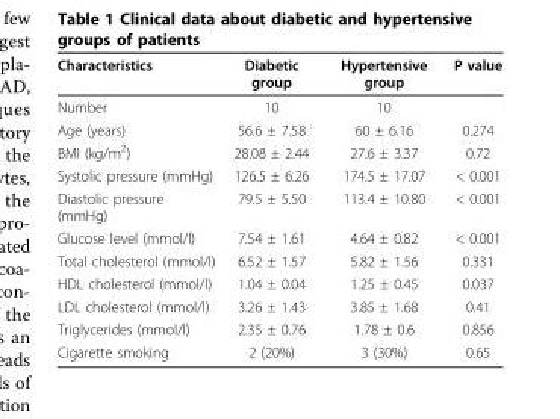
<table><thead><tr><td>Characteristics</td><td>Diabetic group</td><td>Hypertensive group</td><td>P value</td></tr></thead><tbody><tr><td>Number</td><td>10</td><td>10</td><td></td></tr><tr><td>Age (years)</td><td>56.6 ± 7.58</td><td>60 ± 6.16</td><td>0.274</td></tr><tr><td>BMI (kg/m<sup>2</sup>)</td><td>28.08 ± 2.44</td><td>27.6 ± 3.37</td><td>0.72</td></tr><tr><td>Systolic pressure (mmHg)</td><td>126.5 ± 6.26</td><td>174.5 ± 17.07</td><td>&lt; 0.001</td></tr><tr><td>Diastolic pressure (mmHg)</td><td>79.5 ± 5.50</td><td>113.4 ± 10.80</td><td>&lt; 0.001</td></tr><tr><td>Glucose level (mmol/l)</td><td>7.54 ± 1.61</td><td>4.64 ± 0.82</td><td>&lt; 0.001</td></tr><tr><td>Total cholesterol (mmol/l)</td><td>6.52 ± 1.57</td><td>5.82 ± 1.56</td><td>0.331</td></tr><tr><td>HDL cholesterol (mmol/l)</td><td>1.04 ± 0.04</td><td>1.25 ± 0.45</td><td>0.037</td></tr><tr><td>LDL cholesterol (mmol/l)</td><td>3.26 ± 1.43</td><td>3.85 ± 1.68</td><td>0.41</td></tr><tr><td>Triglycerides (mmol/l)</td><td>2.35 ± 0.76</td><td>1.78 ± 0.6</td><td>0.856</td></tr><tr><td>Cigarette smoking</td><td>2 (20%)</td><td>3 (30%)</td><td>0.65</td></tr></tbody></table>